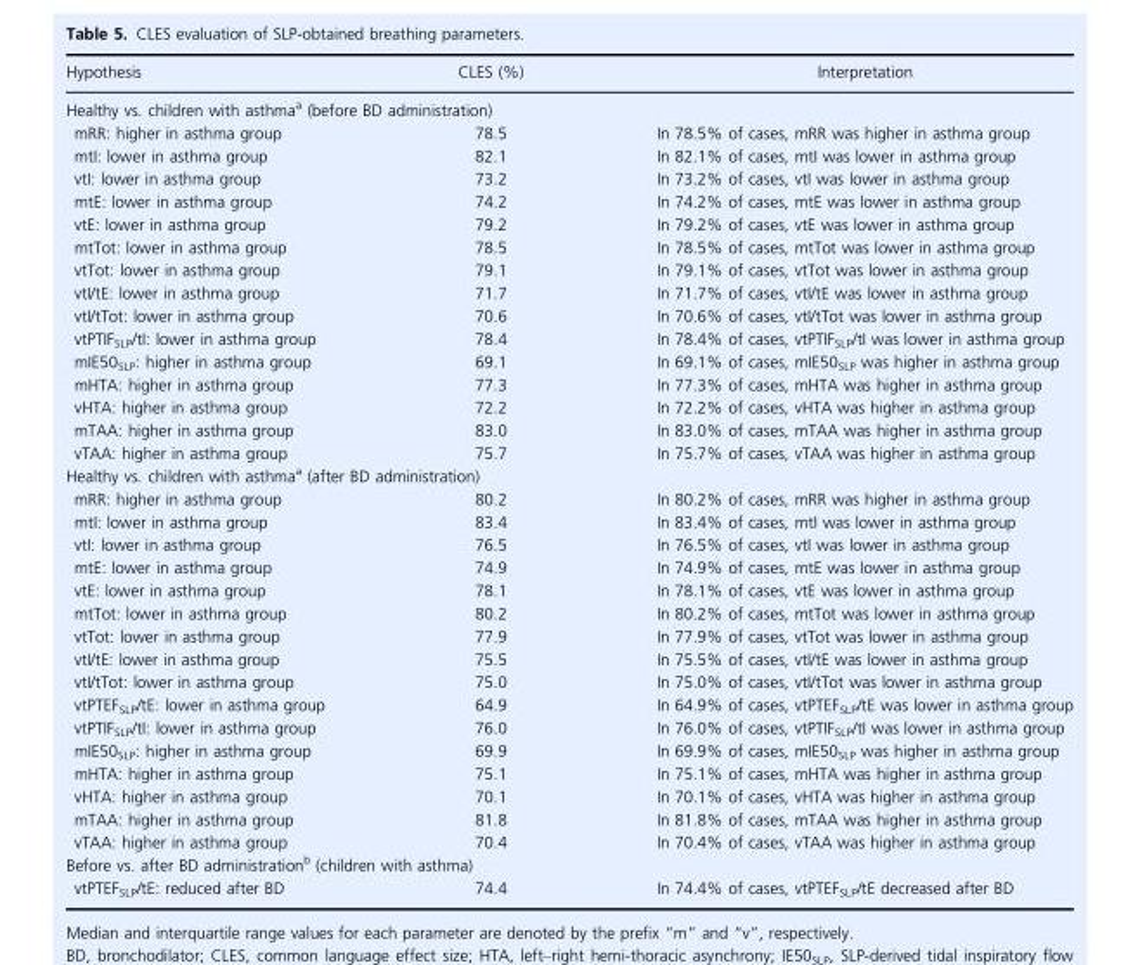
<table><thead><tr><td>Hypothesis</td><td>CLES (%)</td><td>Interpretation</td></tr></thead><tbody><tr><td colspan="3">Healthy vs. children with asthma<sup>a</sup> (before BD administration)</td></tr><tr><td>mRR: higher in asthma group</td><td>78.5</td><td>In 78.5% of cases, mRR was higher in asthma group</td></tr><tr><td>mtI: lower in asthma group</td><td>82.1</td><td>In 82.1% of cases, mtI was lower in asthma group</td></tr><tr><td>vtI: lower in asthma group</td><td>73.2</td><td>In 73.2% of cases, vtI was lower in asthma group</td></tr><tr><td>mtE: lower in asthma group</td><td>74.2</td><td>In 74.2% of cases, mtE was lower in asthma group</td></tr><tr><td>vtE: lower in asthma group</td><td>79.2</td><td>In 79.2% of cases, vtE was lower in asthma group</td></tr><tr><td>mtTot: lower in asthma group</td><td>78.5</td><td>In 78.5% of cases, mtTot was lower in asthma group</td></tr><tr><td>vtTot: lower in asthma group</td><td>79.1</td><td>In 79.1% of cases, vtTot was lower in asthma group</td></tr><tr><td>vtI/tE: lower in asthma group</td><td>71.7</td><td>In 71.7% of cases, vtI/tE was lower in asthma group</td></tr><tr><td>vtI/tTot: lower in asthma group</td><td>70.6</td><td>In 70.6% of cases, vtI/tTot was lower in asthma group</td></tr><tr><td>vtPTIF<sub>SLP</sub>/tI: lower in asthma group</td><td>78.4</td><td>In 78.4% of cases, vtPTIF<sub>SLP</sub>/tI was lower in asthma group</td></tr><tr><td>mIE50<sub>SLP</sub>: higher in asthma group</td><td>69.1</td><td>In 69.1% of cases, mIE50<sub>SLP</sub> was higher in asthma group</td></tr><tr><td>mHTA: higher in asthma group</td><td>77.3</td><td>In 77.3% of cases, mHTA was higher in asthma group</td></tr><tr><td>vHTA: higher in asthma group</td><td>72.2</td><td>In 72.2% of cases, vHTA was higher in asthma group</td></tr><tr><td>mTAA: higher in asthma group</td><td>83.0</td><td>In 83.0% of cases, mTAA was higher in asthma group</td></tr><tr><td>vTAA: higher in asthma group</td><td>75.7</td><td>In 75.7% of cases, vTAA was higher in asthma group</td></tr><tr><td colspan="3">Healthy vs. children with asthma<sup>a</sup> (after BD administration)</td></tr><tr><td>mRR: higher in asthma group</td><td>80.2</td><td>In 80.2% of cases, mRR was higher in asthma group</td></tr><tr><td>mtI: lower in asthma group</td><td>83.4</td><td>In 83.4% of cases, mtI was lower in asthma group</td></tr><tr><td>vtI: lower in asthma group</td><td>76.5</td><td>In 76.5% of cases, vtI was lower in asthma group</td></tr><tr><td>mtE: lower in asthma group</td><td>74.9</td><td>In 74.9% of cases, mtE was lower in asthma group</td></tr><tr><td>vtE: lower in asthma group</td><td>78.1</td><td>In 78.1% of cases, vtE was lower in asthma group</td></tr><tr><td>mtTot: lower in asthma group</td><td>80.2</td><td>In 80.2% of cases, mtTot was lower in asthma group</td></tr><tr><td>vtTot: lower in asthma group</td><td>77.9</td><td>In 77.9% of cases, vtTot was lower in asthma group</td></tr><tr><td>vtI/tE: lower in asthma group</td><td>75.5</td><td>In 75.5% of cases, vtI/tE was lower in asthma group</td></tr><tr><td>vtI/tTot: lower in asthma group</td><td>75.0</td><td>In 75.0% of cases, vtI/tTot was lower in asthma group</td></tr><tr><td>vtPTEF<sub>SLP</sub>/tE: lower in asthma group</td><td>64.9</td><td>In 64.9% of cases, vtPTEF<sub>SLP</sub>/tE was lower in asthma group</td></tr><tr><td>vtPTIF<sub>SLP</sub>/tI: lower in asthma group</td><td>76.0</td><td>In 76.0% of cases, vtPTIF<sub>SLP</sub>/tI was lower in asthma group</td></tr><tr><td>mIE50<sub>SLP</sub>: higher in asthma group</td><td>69.9</td><td>In 69.9% of cases, mIE50<sub>SLP</sub> was higher in asthma group</td></tr><tr><td>mHTA: higher in asthma group</td><td>75.1</td><td>In 75.1% of cases, mHTA was higher in asthma group</td></tr><tr><td>vHTA: higher in asthma group</td><td>70.1</td><td>In 70.1% of cases, vHTA was higher in asthma group</td></tr><tr><td>mTAA: higher in asthma group</td><td>81.8</td><td>In 81.8% of cases, mTAA was higher in asthma group</td></tr><tr><td>vTAA: higher in asthma group</td><td>70.4</td><td>In 70.4% of cases, vTAA was higher in asthma group</td></tr><tr><td colspan="3">Before vs. after BD administration<sup>b</sup> (children with asthma)</td></tr><tr><td>vtPTEF<sub>SLP</sub>/tE: reduced after BD</td><td>74.4</td><td>In 74.4% of cases, vtPTEF<sub>SLP</sub>/tE decreased after BD</td></tr></tbody></table>